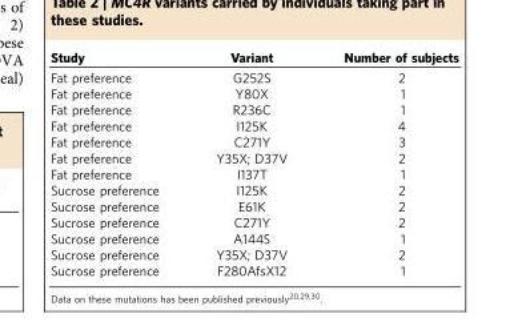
<table><thead><tr><td>Study</td><td>Variant</td><td>Number of subjects</td></tr></thead><tbody><tr><td>Fat preference</td><td>G252S</td><td>2</td></tr><tr><td>Fat preference</td><td>Y80X</td><td>1</td></tr><tr><td>Fat preference</td><td>R236C</td><td>1</td></tr><tr><td>Fat preference</td><td>I125K</td><td>4</td></tr><tr><td>Fat preference</td><td>C271Y</td><td>3</td></tr><tr><td>Fat preference</td><td>Y35X; D37V</td><td>2</td></tr><tr><td>Fat preference</td><td>I137T</td><td>1</td></tr><tr><td>Sucrose preference</td><td>I125K</td><td>2</td></tr><tr><td>Sucrose preference</td><td>E61K</td><td>2</td></tr><tr><td>Sucrose preference</td><td>C271Y</td><td>2</td></tr><tr><td>Sucrose preference</td><td>A144S</td><td>1</td></tr><tr><td>Sucrose preference</td><td>Y35X; D37V</td><td>2</td></tr><tr><td>Sucrose preference</td><td>F280AfsX12</td><td>1</td></tr></tbody></table>